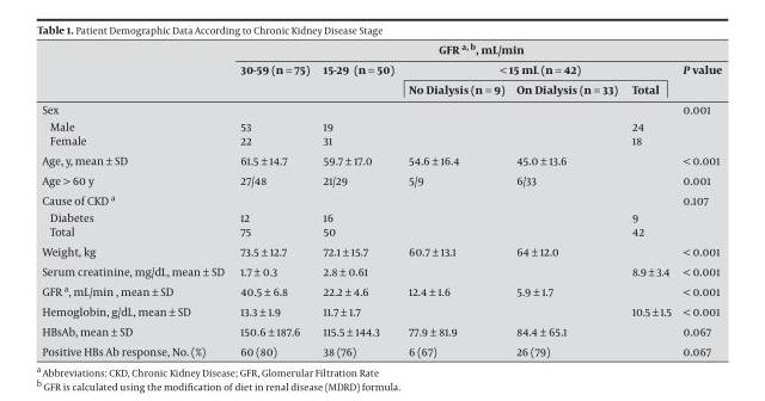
<table><thead><tr><td rowspan="3"></td><td colspan="6">GFR a, b, mL/min</td></tr><tr><td rowspan="2">30-59 (n = 75)</td><td rowspan="2">15-29 (n = 50)</td><td colspan="3">&lt; 15 mL (n = 42)</td><td rowspan="2">P value</td></tr><tr><td>No Dialysis (n = 9)</td><td>On Dialysis (n = 33)</td><td>Total</td></tr></thead><tbody><tr><td>Sex</td><td></td><td></td><td></td><td></td><td></td><td>0.001</td></tr><tr><td>Male</td><td>53</td><td>19</td><td></td><td></td><td>24</td><td></td></tr><tr><td>Female</td><td>22</td><td>31</td><td></td><td></td><td>18</td><td></td></tr><tr><td>Age, y, mean ± SD</td><td>61.5 ± 14.7</td><td>59.7 ± 17.0</td><td>54.6 ± 16.4</td><td>45.0 ± 13.6</td><td></td><td>&lt; 0.001</td></tr><tr><td>Age &gt; 60 y</td><td>27/48</td><td>21/29</td><td>5/9</td><td>6/33</td><td></td><td>0.001</td></tr><tr><td>Cause of CKD a</td><td></td><td></td><td></td><td></td><td></td><td>0.107</td></tr><tr><td>Diabetes</td><td>12</td><td>16</td><td></td><td></td><td>9</td><td></td></tr><tr><td>Total</td><td>75</td><td>50</td><td></td><td></td><td>42</td><td></td></tr><tr><td>Weight, kg</td><td>73.5 ± 12.7</td><td>72.1 ± 15.7</td><td>60.7 ± 13.1</td><td>64 ± 12.0</td><td></td><td>&lt; 0.001</td></tr><tr><td>Serum creatinine, mg/dL, mean ± SD</td><td>1.7 ± 0.3</td><td>2.8 ± 0.61</td><td></td><td></td><td>8.9 ± 3.4</td><td>&lt; 0.001</td></tr><tr><td>GFR a, mL/min , mean ± SD</td><td>40.5 ± 6.8</td><td>22.2 ± 4.6</td><td>12.4 ± 1.6</td><td>5.9 ± 1.7</td><td></td><td>&lt; 0.001</td></tr><tr><td>Hemoglobin, g/dL, mean ± SD</td><td>13.3 ± 1.9</td><td>11.7 ± 1.7</td><td></td><td></td><td>10.5 ± 1.5</td><td>&lt; 0.001</td></tr><tr><td>HBsAb, mean ± SD</td><td>150.6 ± 187.6</td><td>115.5 ± 144.3</td><td>77.9 ± 81.9</td><td>84.4 ± 65.1</td><td></td><td>0.067</td></tr><tr><td>Positive HBs Ab response, No. (%)</td><td>60 (80)</td><td>38 (76)</td><td>6 (67)</td><td>26 (79)</td><td></td><td>0.067</td></tr></tbody></table>